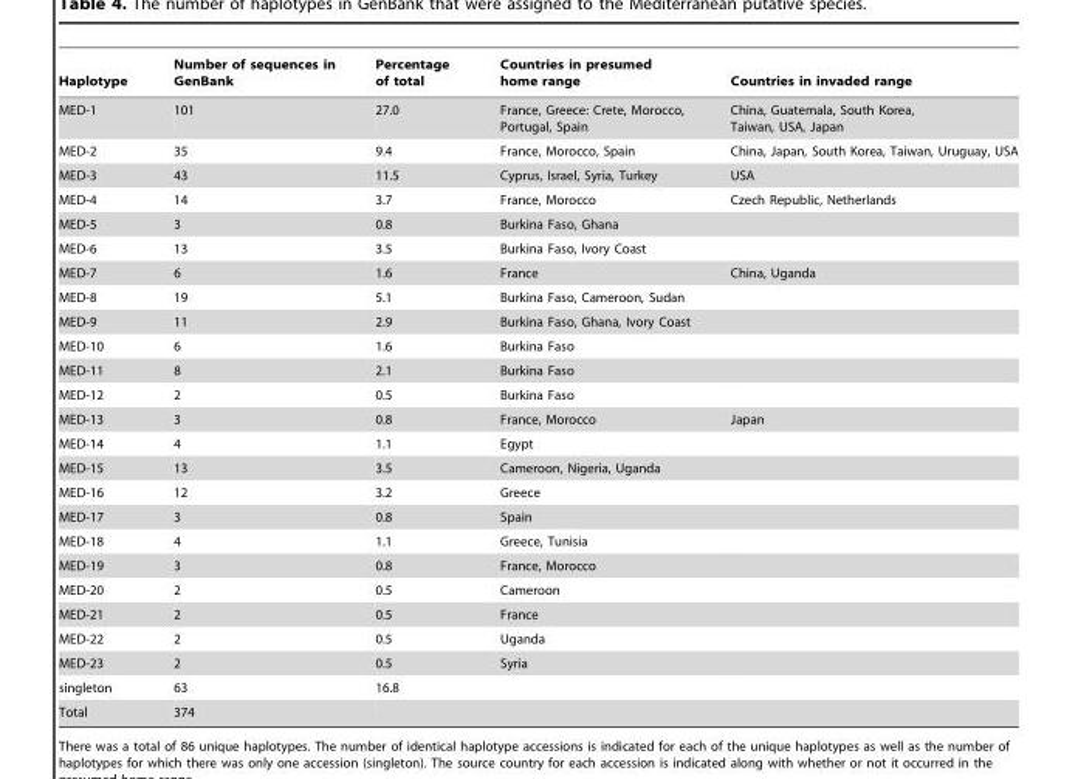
<table><thead><tr><td>Haplotype</td><td>Number of sequences in GenBank</td><td>Percentage of total</td><td>Countries in presumed home range</td><td>Countries in invaded range</td></tr></thead><tbody><tr><td>MED-1</td><td>101</td><td>27.0</td><td>France, Greece: Crete, Morocco, Portugal, Spain</td><td>China, Guatemala, South Korea, Taiwan, USA, Japan</td></tr><tr><td>MED-2</td><td>35</td><td>9.4</td><td>France, Morocco, Spain</td><td>China, Japan, South Korea, Taiwan, Uruguay, USA</td></tr><tr><td>MED-3</td><td>43</td><td>11.5</td><td>Cyprus, Israel, Syria, Turkey</td><td>USA</td></tr><tr><td>MED-4</td><td>14</td><td>3.7</td><td>France, Morocco</td><td>Czech Republic, Netherlands</td></tr><tr><td>MED-5</td><td>3</td><td>0.8</td><td>Burkina Faso, Ghana</td><td></td></tr><tr><td>MED-6</td><td>13</td><td>3.5</td><td>Burkina Faso, Ivory Coast</td><td></td></tr><tr><td>MED-7</td><td>6</td><td>1.6</td><td>France</td><td>China, Uganda</td></tr><tr><td>MED-8</td><td>19</td><td>5.1</td><td>Burkina Faso, Cameroon, Sudan</td><td></td></tr><tr><td>MED-9</td><td>11</td><td>2.9</td><td>Burkina Faso, Ghana, Ivory Coast</td><td></td></tr><tr><td>MED-10</td><td>6</td><td>1.6</td><td>Burkina Faso</td><td></td></tr><tr><td>MED-11</td><td>8</td><td>2.1</td><td>Burkina Faso</td><td></td></tr><tr><td>MED-12</td><td>2</td><td>0.5</td><td>Burkina Faso</td><td></td></tr><tr><td>MED-13</td><td>3</td><td>0.8</td><td>France, Morocco</td><td>Japan</td></tr><tr><td>MED-14</td><td>4</td><td>1.1</td><td>Egypt</td><td></td></tr><tr><td>MED-15</td><td>13</td><td>3.5</td><td>Cameroon, Nigeria, Uganda</td><td></td></tr><tr><td>MED-16</td><td>12</td><td>3.2</td><td>Greece</td><td></td></tr><tr><td>MED-17</td><td>3</td><td>0.8</td><td>Spain</td><td></td></tr><tr><td>MED-18</td><td>4</td><td>1.1</td><td>Greece, Tunisia</td><td></td></tr><tr><td>MED-19</td><td>3</td><td>0.8</td><td>France, Morocco</td><td></td></tr><tr><td>MED-20</td><td>2</td><td>0.5</td><td>Cameroon</td><td></td></tr><tr><td>MED-21</td><td>2</td><td>0.5</td><td>France</td><td></td></tr><tr><td>MED-22</td><td>2</td><td>0.5</td><td>Uganda</td><td></td></tr><tr><td>MED-23</td><td>2</td><td>0.5</td><td>Syria</td><td></td></tr><tr><td>singleton</td><td>63</td><td>16.8</td><td></td><td></td></tr><tr><td>Total</td><td>374</td><td></td><td></td><td></td></tr></tbody></table>